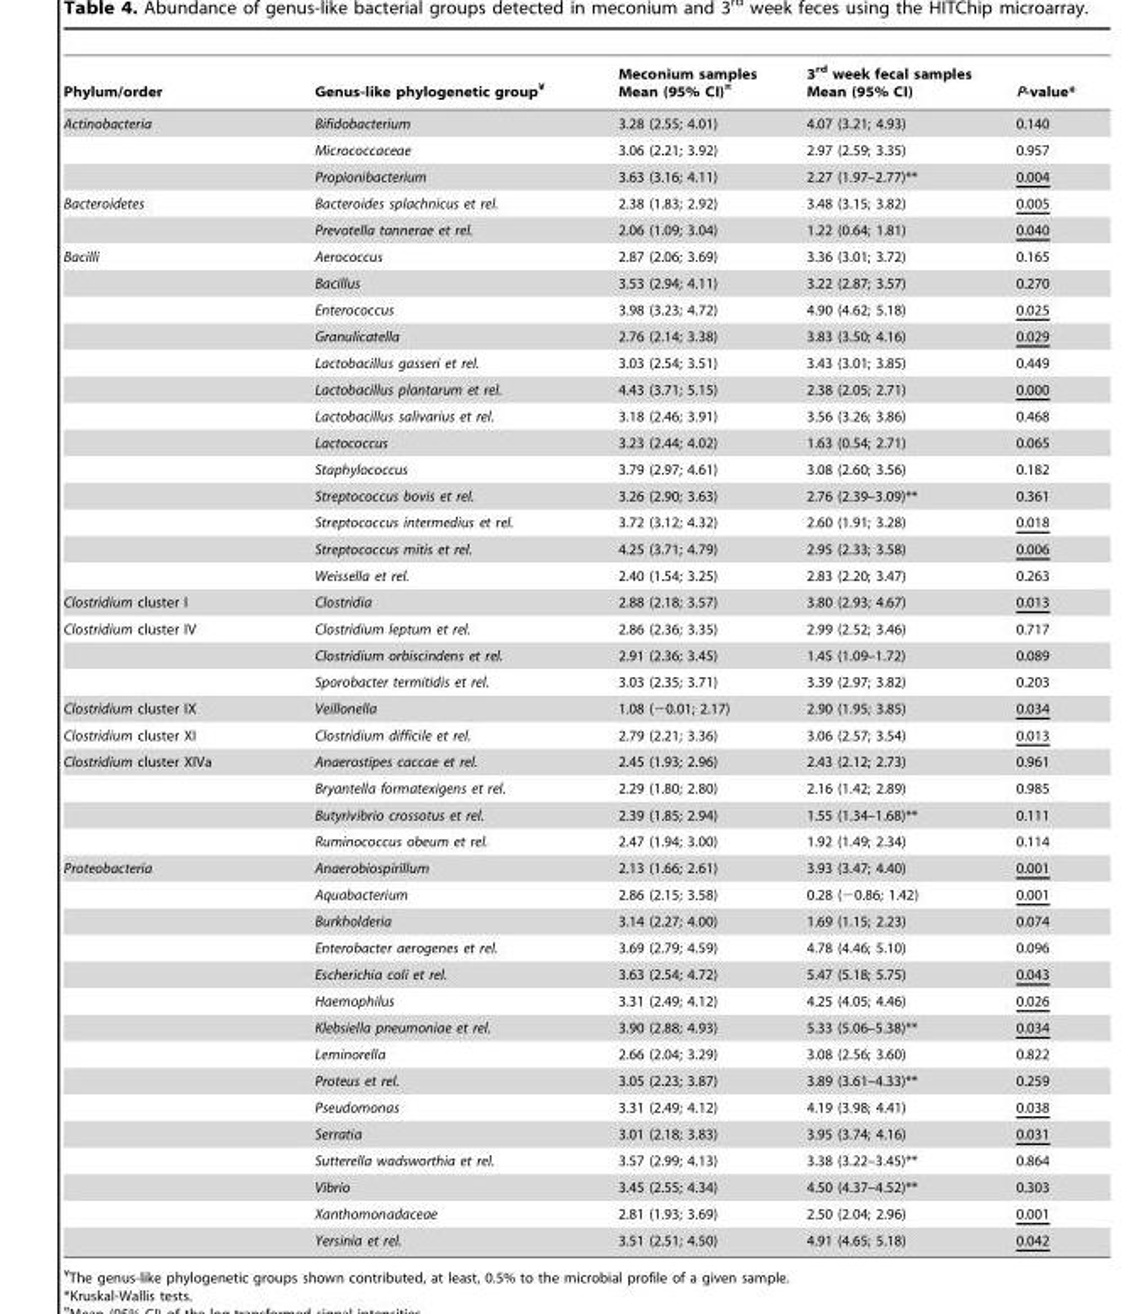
<table><thead><tr><td>Phylum/order</td><td>Genus-like phylogenetic group¥</td><td>Meconium samples Mean (95% CI)¤</td><td>3<sup>rd</sup> week fecal samples Mean (95% CI)</td><td>P-value*</td></tr></thead><tbody><tr><td rowspan="3">Actinobacteria</td><td>Bifidobacterium</td><td>3.28 (2.55; 4.01)</td><td>4.07 (3.21; 4.93)</td><td>0.140</td></tr><tr><td>Micrococcaceae</td><td>3.06 (2.21; 3.92)</td><td>2.97 (2.59; 3.35)</td><td>0.957</td></tr><tr><td>Propionibacterium</td><td>3.63 (3.16; 4.11)</td><td>2.27 (1.97–2.77)**</td><td>0.004</td></tr><tr><td rowspan="2">Bacteroidetes</td><td>Bacteroides splachnicus et rel.</td><td>2.38 (1.83; 2.92)</td><td>3.48 (3.15; 3.82)</td><td>0.005</td></tr><tr><td>Prevotella tannerae et rel.</td><td>2.06 (1.09; 3.04)</td><td>1.22 (0.64; 1.81)</td><td>0.040</td></tr><tr><td rowspan="13">Bacilli</td><td>Aerococcus</td><td>2.87 (2.06; 3.69)</td><td>3.36 (3.01; 3.72)</td><td>0.165</td></tr><tr><td>Bacillus</td><td>3.53 (2.94; 4.11)</td><td>3.22 (2.87; 3.57)</td><td>0.270</td></tr><tr><td>Enterococcus</td><td>3.98 (3.23; 4.72)</td><td>4.90 (4.62; 5.18)</td><td>0.025</td></tr><tr><td>Granulicatella</td><td>2.76 (2.14; 3.38)</td><td>3.83 (3.50; 4.16)</td><td>0.029</td></tr><tr><td>Lactobacillus gasseri et rel.</td><td>3.03 (2.54; 3.51)</td><td>3.43 (3.01; 3.85)</td><td>0.449</td></tr><tr><td>Lactobacillus plantarum et rel.</td><td>4.43 (3.71; 5.15)</td><td>2.38 (2.05; 2.71)</td><td>0.000</td></tr><tr><td>Lactobacillus salivarius et rel.</td><td>3.18 (2.46; 3.91)</td><td>3.56 (3.26; 3.86)</td><td>0.468</td></tr><tr><td>Lactococcus</td><td>3.23 (2.44; 4.02)</td><td>1.63 (0.54; 2.71)</td><td>0.065</td></tr><tr><td>Staphylococcus</td><td>3.79 (2.97; 4.61)</td><td>3.08 (2.60; 3.56)</td><td>0.182</td></tr><tr><td>Streptococcus bovis et rel.</td><td>3.26 (2.90; 3.63)</td><td>2.76 (2.39–3.09)**</td><td>0.361</td></tr><tr><td>Streptococcus intermedius et rel.</td><td>3.72 (3.12; 4.32)</td><td>2.60 (1.91; 3.28)</td><td>0.018</td></tr><tr><td>Streptococcus mitis et rel.</td><td>4.25 (3.71; 4.79)</td><td>2.95 (2.33; 3.58)</td><td>0.006</td></tr><tr><td>Weissella et rel.</td><td>2.40 (1.54; 3.25)</td><td>2.83 (2.20; 3.47)</td><td>0.263</td></tr><tr><td>Clostridium cluster I</td><td>Clostridia</td><td>2.88 (2.18; 3.57)</td><td>3.80 (2.93; 4.67)</td><td>0.013</td></tr><tr><td rowspan="3">Clostridium cluster IV</td><td>Clostridium leptum et rel.</td><td>2.86 (2.36; 3.35)</td><td>2.99 (2.52; 3.46)</td><td>0.717</td></tr><tr><td>Clostridium orbiscindens et rel.</td><td>2.91 (2.36; 3.45)</td><td>1.45 (1.09–1.72)</td><td>0.089</td></tr><tr><td>Sporobacter termitidis et rel.</td><td>3.03 (2.35; 3.71)</td><td>3.39 (2.97; 3.82)</td><td>0.203</td></tr><tr><td>Clostridium cluster IX</td><td>Veillonella</td><td>1.08 (−0.01; 2.17)</td><td>2.90 (1.95; 3.85)</td><td>0.034</td></tr><tr><td>Clostridium cluster XI</td><td>Clostridium difficile et rel.</td><td>2.79 (2.21; 3.36)</td><td>3.06 (2.57; 3.54)</td><td>0.013</td></tr><tr><td rowspan="4">Clostridium cluster XIVa</td><td>Anaerostipes caccae et rel.</td><td>2.45 (1.93; 2.96)</td><td>2.43 (2.12; 2.73)</td><td>0.961</td></tr><tr><td>Bryantella formatexigens et rel.</td><td>2.29 (1.80; 2.80)</td><td>2.16 (1.42; 2.89)</td><td>0.985</td></tr><tr><td>Butyrivibrio crossotus et rel.</td><td>2.39 (1.85; 2.94)</td><td>1.55 (1.34–1.68)**</td><td>0.111</td></tr><tr><td>Ruminococcus obeum et rel.</td><td>2.47 (1.94; 3.00)</td><td>1.92 (1.49; 2.34)</td><td>0.114</td></tr><tr><td rowspan="15">Proteobacteria</td><td>Anaerobiospirillum</td><td>2.13 (1.66; 2.61)</td><td>3.93 (3.47; 4.40)</td><td>0.001</td></tr><tr><td>Aquabacterium</td><td>2.86 (2.15; 3.58)</td><td>0.28 (−0.86; 1.42)</td><td>0.001</td></tr><tr><td>Burkholderia</td><td>3.14 (2.27; 4.00)</td><td>1.69 (1.15; 2.23)</td><td>0.074</td></tr><tr><td>Enterobacter aerogenes et rel.</td><td>3.69 (2.79; 4.59)</td><td>4.78 (4.46; 5.10)</td><td>0.096</td></tr><tr><td>Escherichia coli et rel.</td><td>3.63 (2.54; 4.72)</td><td>5.47 (5.18; 5.75)</td><td>0.043</td></tr><tr><td>Haemophilus</td><td>3.31 (2.49; 4.12)</td><td>4.25 (4.05; 4.46)</td><td>0.026</td></tr><tr><td>Klebsiella pneumoniae et rel.</td><td>3.90 (2.88; 4.93)</td><td>5.33 (5.06–5.38)**</td><td>0.034</td></tr><tr><td>Leminorella</td><td>2.66 (2.04; 3.29)</td><td>3.08 (2.56; 3.60)</td><td>0.822</td></tr><tr><td>Proteus et rel.</td><td>3.05 (2.23; 3.87)</td><td>3.89 (3.61–4.33)**</td><td>0.259</td></tr><tr><td>Pseudomonas</td><td>3.31 (2.49; 4.12)</td><td>4.19 (3.98; 4.41)</td><td>0.038</td></tr><tr><td>Serratia</td><td>3.01 (2.18; 3.83)</td><td>3.95 (3.74; 4.16)</td><td>0.031</td></tr><tr><td>Sutterella wadsworthia et rel.</td><td>3.57 (2.99; 4.13)</td><td>3.38 (3.22–3.45)**</td><td>0.864</td></tr><tr><td>Vibrio</td><td>3.45 (2.55; 4.34)</td><td>4.50 (4.37–4.52)**</td><td>0.303</td></tr><tr><td>Xanthomonadaceae</td><td>2.81 (1.93; 3.69)</td><td>2.50 (2.04; 2.96)</td><td>0.001</td></tr><tr><td>Yersinia et rel.</td><td>3.51 (2.51; 4.50)</td><td>4.91 (4.65; 5.18)</td><td>0.042</td></tr></tbody></table>